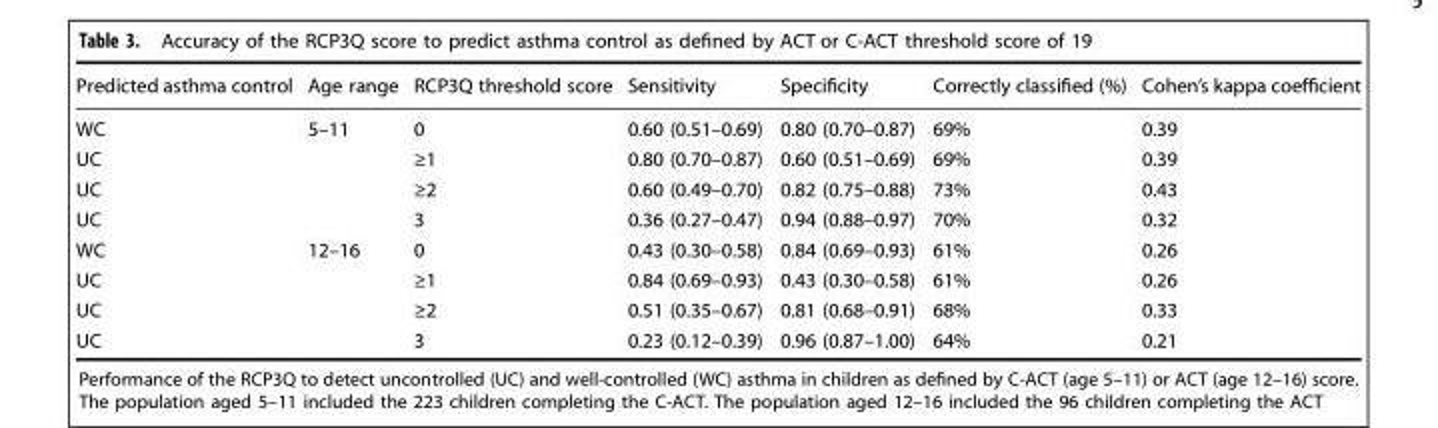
<table><thead><tr><td>Predicted asthma control</td><td>Age range</td><td>RCP3Q threshold score</td><td>Sensitivity</td><td>Specificity</td><td>Correctly classified (%)</td><td>Cohen’s kappa coefficient</td></tr></thead><tbody><tr><td>WC</td><td rowspan="4">5–11</td><td>0</td><td>0.60 (0.51–0.69)</td><td>0.80 (0.70–0.87)</td><td>69%</td><td>0.39</td></tr><tr><td>UC</td><td>≥1</td><td>0.80 (0.70–0.87)</td><td>0.60 (0.51–0.69)</td><td>69%</td><td>0.39</td></tr><tr><td>UC</td><td>≥2</td><td>0.60 (0.49–0.70)</td><td>0.82 (0.75–0.88)</td><td>73%</td><td>0.43</td></tr><tr><td>UC</td><td>3</td><td>0.36 (0.27–0.47)</td><td>0.94 (0.88–0.97)</td><td>70%</td><td>0.32</td></tr><tr><td>WC</td><td rowspan="4">12–16</td><td>0</td><td>0.43 (0.30–0.58)</td><td>0.84 (0.69–0.93)</td><td>61%</td><td>0.26</td></tr><tr><td>UC</td><td>≥1</td><td>0.84 (0.69–0.93)</td><td>0.43 (0.30–0.58)</td><td>61%</td><td>0.26</td></tr><tr><td>UC</td><td>≥2</td><td>0.51 (0.35–0.67)</td><td>0.81 (0.68–0.91)</td><td>68%</td><td>0.33</td></tr><tr><td>UC</td><td>3</td><td>0.23 (0.12–0.39)</td><td>0.96 (0.87–1.00)</td><td>64%</td><td>0.21</td></tr></tbody></table>